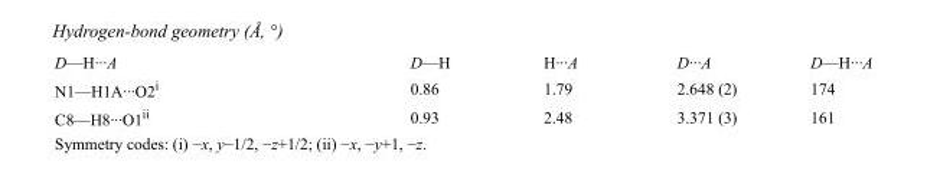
<table><tbody><tr><td>D—H···A</td><td>D—H</td><td>H···A</td><td>D···A</td><td>D—H···A</td></tr><tr><td>N1—H1A···O2<sup>i</sup></td><td>0.86</td><td>1.79</td><td>2.648 (2)</td><td>174</td></tr><tr><td>C8—H8···O1<sup>ii</sup></td><td>0.93</td><td>2.48</td><td>3.371 (3)</td><td>161</td></tr></tbody></table>